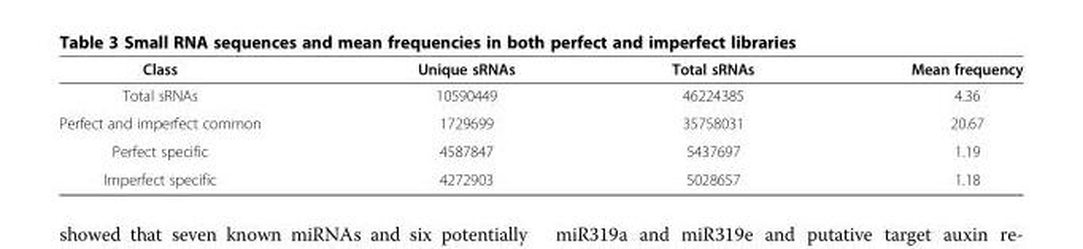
<table><thead><tr><td>Class</td><td>Unique sRNAs</td><td>Total sRNAs</td><td>Mean frequency</td></tr></thead><tbody><tr><td>Total sRNAs</td><td>10590449</td><td>46224385</td><td>4.36</td></tr><tr><td>Perfect and imperfect common</td><td>1729699</td><td>35758031</td><td>20.67</td></tr><tr><td>Perfect specific</td><td>4587847</td><td>5437697</td><td>1.19</td></tr><tr><td>Imperfect specific</td><td>4272903</td><td>5028657</td><td>1.18</td></tr></tbody></table>